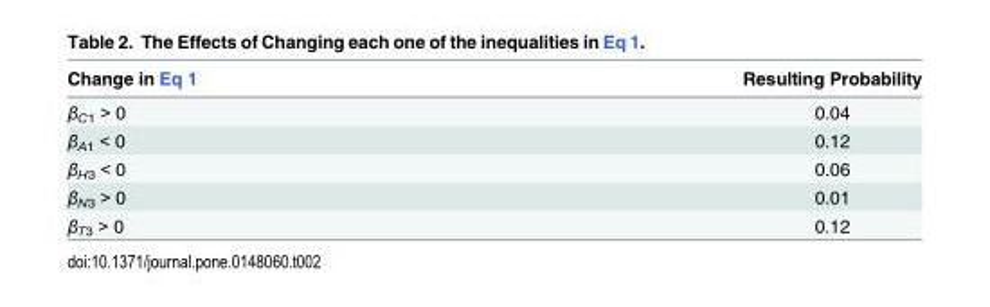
<table><thead><tr><td>Change in Eq 1</td><td>Resulting Probability</td></tr></thead><tbody><tr><td>β<sub>C1</sub> &gt; 0</td><td>0.04</td></tr><tr><td>β<sub>A1</sub> &lt; 0</td><td>0.12</td></tr><tr><td>β<sub>H3</sub> &lt; 0</td><td>0.06</td></tr><tr><td>β<sub>N3</sub> &gt; 0</td><td>0.01</td></tr><tr><td>β<sub>T3</sub> &gt; 0</td><td>0.12</td></tr></tbody></table>